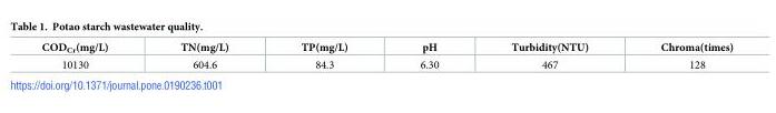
<table><thead><tr><td>COD<sub>Cr</sub>(mg/L)</td><td>TN(mg/L)</td><td>TP(mg/L)</td><td>pH</td><td>Turbidity(NTU)</td><td>Chroma(times)</td></tr></thead><tbody><tr><td>10130</td><td>604.6</td><td>84.3</td><td>6.30</td><td>467</td><td>128</td></tr></tbody></table>